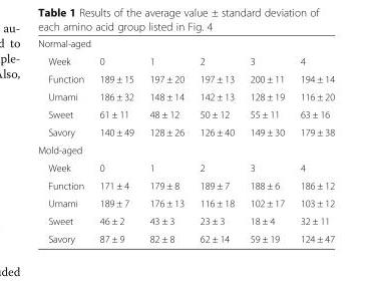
<table><tbody><tr><td colspan="6">Normal-aged</td></tr><tr><td>Week</td><td>0</td><td>1</td><td>2</td><td>3</td><td>4</td></tr><tr><td>Function</td><td>189 ± 15</td><td>197 ± 20</td><td>197 ± 13</td><td>200 ± 11</td><td>194 ± 14</td></tr><tr><td>Umami</td><td>186 ± 32</td><td>148 ± 14</td><td>142 ± 13</td><td>128 ± 19</td><td>116 ± 20</td></tr><tr><td>Sweet</td><td>61 ± 11</td><td>48 ± 12</td><td>50 ± 12</td><td>55 ± 11</td><td>63 ± 16</td></tr><tr><td>Savory</td><td>140 ± 49</td><td>128 ± 26</td><td>126 ± 40</td><td>149 ± 30</td><td>179 ± 38</td></tr><tr><td colspan="6">Mold-aged</td></tr><tr><td>Week</td><td>0</td><td>1</td><td>2</td><td>3</td><td>4</td></tr><tr><td>Function</td><td>171 ± 4</td><td>179 ± 8</td><td>189 ± 7</td><td>188 ± 6</td><td>186 ± 12</td></tr><tr><td>Umami</td><td>189 ± 7</td><td>176 ± 13</td><td>116 ± 18</td><td>102 ± 17</td><td>103 ± 12</td></tr><tr><td>Sweet</td><td>46 ± 2</td><td>43 ± 3</td><td>23 ± 3</td><td>18 ± 4</td><td>32 ± 11</td></tr><tr><td>Savory</td><td>87 ± 9</td><td>82 ± 8</td><td>62 ± 14</td><td>59 ± 19</td><td>124 ± 47</td></tr></tbody></table>